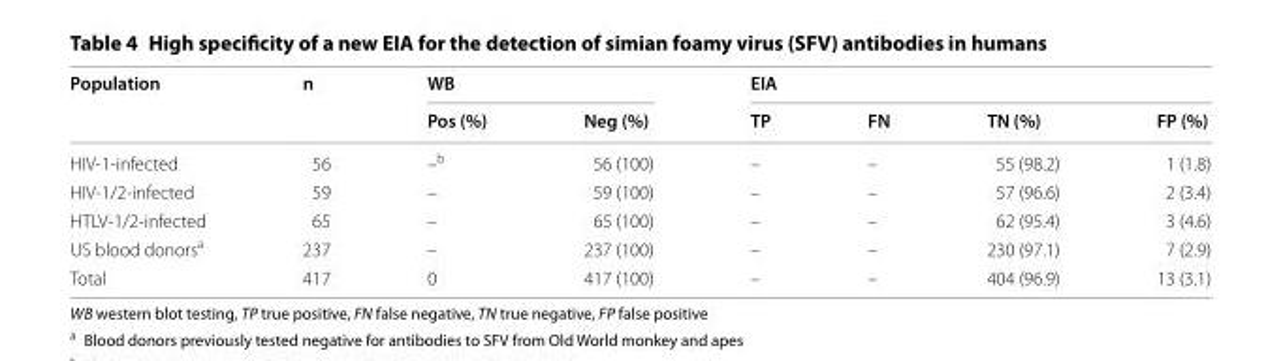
<table><thead><tr><td rowspan="2">Population</td><td rowspan="2">n</td><td colspan="2">WB</td><td colspan="4">EIA</td></tr><tr><td>Pos (%)</td><td>Neg (%)</td><td>TP</td><td>FN</td><td>TN (%)</td><td>FP (%)</td></tr></thead><tbody><tr><td>HIV-1-infected</td><td>56</td><td>–<sup>b</sup></td><td>56 (100)</td><td>–</td><td>–</td><td>55 (98.2)</td><td>1 (1.8)</td></tr><tr><td>HIV-1/2-infected</td><td>59</td><td>–</td><td>59 (100)</td><td>–</td><td>–</td><td>57 (96.6)</td><td>2 (3.4)</td></tr><tr><td>HTLV-1/2-infected</td><td>65</td><td>–</td><td>65 (100)</td><td>–</td><td>–</td><td>62 (95.4)</td><td>3 (4.6)</td></tr><tr><td>US blood donors<sup>a</sup></td><td>237</td><td>–</td><td>237 (100)</td><td>–</td><td>–</td><td>230 (97.1)</td><td>7 (2.9)</td></tr><tr><td>Total</td><td>417</td><td>0</td><td>417 (100)</td><td>–</td><td>–</td><td>404 (96.9)</td><td>13 (3.1)</td></tr></tbody></table>